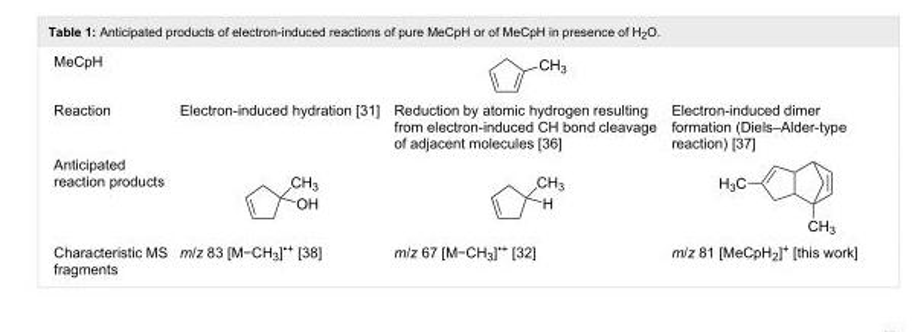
<table><tbody><tr><td colspan="4">MeCpH</td></tr><tr><td>Reaction</td><td>Electron-induced hydration [31]</td><td>Reduction by atomic hydrogen resulting from electron-induced CH bond cleavage of adjacent molecules [36]</td><td>Electron-induced dimer formation (Diels–Alder-type reaction) [37]</td></tr><tr><td colspan="4">Anticipated reaction products</td></tr><tr><td>Characteristic MS fragments</td><td>m/z 83 [M−CH<sub>3</sub>]<sup>•+</sup> [38]</td><td>m/z 67 [M−CH<sub>3</sub>]<sup>•+</sup> [32]</td><td>m/z 81 [MeCpH<sub>2</sub>]<sup>+</sup> [this work]</td></tr></tbody></table>